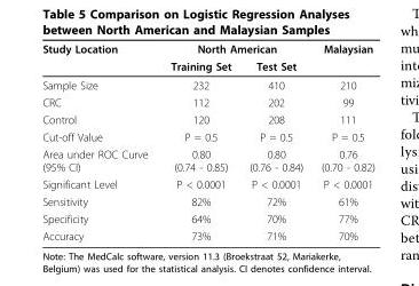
<table><thead><tr><td rowspan="2">Study Location</td><td colspan="2">North American</td><td rowspan="2">Malaysian</td></tr><tr><td>Training Set</td><td>Test Set</td></tr></thead><tbody><tr><td>Sample Size</td><td>232</td><td>410</td><td>210</td></tr><tr><td>CRC</td><td>112</td><td>202</td><td>99</td></tr><tr><td>Control</td><td>120</td><td>208</td><td>111</td></tr><tr><td>Cut-off Value</td><td>P = 0.5</td><td>P = 0.5</td><td>P = 0.5</td></tr><tr><td>Area under ROC Curve (95% CI)</td><td>0.80 (0.74 - 0.85)</td><td>0.80 (0.76 - 0.84)</td><td>0.76 (0.70 - 0.82)</td></tr><tr><td>Significant Level</td><td>P &lt; 0.0001</td><td>P &lt; 0.0001</td><td>P &lt; 0.0001</td></tr><tr><td>Sensitivity</td><td>82%</td><td>72%</td><td>61%</td></tr><tr><td>Specificity</td><td>64%</td><td>70%</td><td>77%</td></tr><tr><td>Accuracy</td><td>73%</td><td>71%</td><td>70%</td></tr></tbody></table>